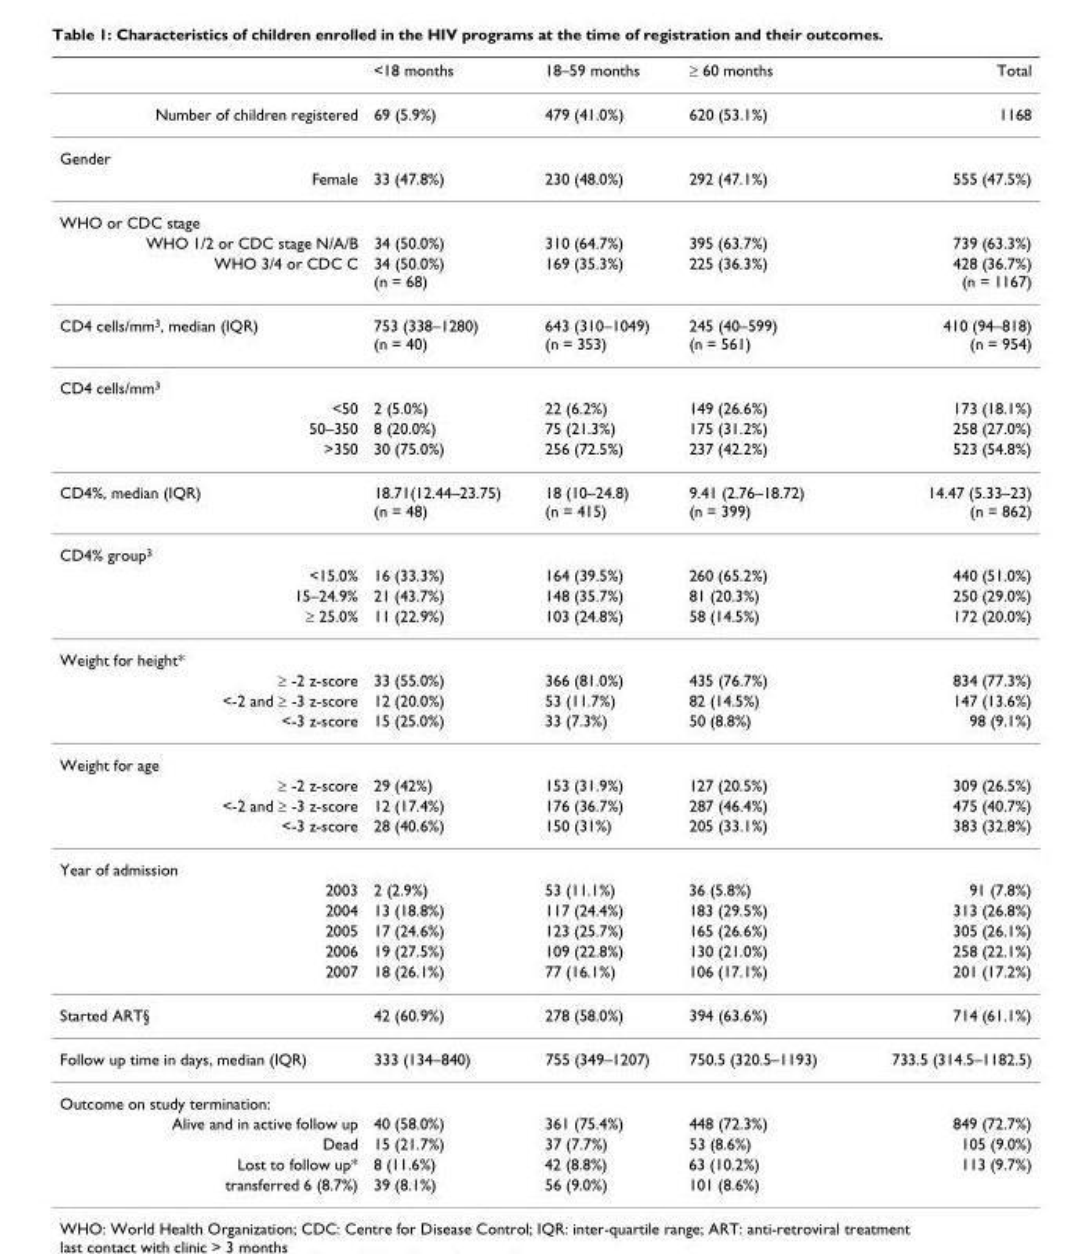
<table><thead><tr><td></td><td>&lt;18 months</td><td>18–59 months</td><td>≥ 60 months</td><td>Total</td></tr></thead><tbody><tr><td>Number of children registered</td><td>69 (5.9%)</td><td>479 (41.0%)</td><td>620 (53.1%)</td><td>1168</td></tr><tr><td colspan="5">Gender</td></tr><tr><td>Female</td><td>33 (47.8%)</td><td>230 (48.0%)</td><td>292 (47.1%)</td><td>555 (47.5%)</td></tr><tr><td colspan="5">WHO or CDC stage</td></tr><tr><td>WHO 1/2 or CDC stage N/A/B</td><td>34 (50.0%)</td><td>310 (64.7%)</td><td>395 (63.7%)</td><td>739 (63.3%)</td></tr><tr><td>WHO 3/4 or CDC C</td><td>34 (50.0%) (n = 68)</td><td>169 (35.3%)</td><td>225 (36.3%)</td><td>428 (36.7%) (n = 1167)</td></tr><tr><td>CD4 cells/mm<sup>3</sup>, median (IQR)</td><td>753 (338–1280) (n = 40)</td><td>643 (310–1049) (n = 353)</td><td>245 (40–599) (n = 561)</td><td>410 (94–818) (n = 954)</td></tr><tr><td colspan="5">CD4 cells/mm<sup>3</sup></td></tr><tr><td>&lt;50</td><td>2 (5.0%)</td><td>22 (6.2%)</td><td>149 (26.6%)</td><td>173 (18.1%)</td></tr><tr><td>50–350</td><td>8 (20.0%)</td><td>75 (21.3%)</td><td>175 (31.2%)</td><td>258 (27.0%)</td></tr><tr><td>&gt;350</td><td>30 (75.0%)</td><td>256 (72.5%)</td><td>237 (42.2%)</td><td>523 (54.8%)</td></tr><tr><td>CD4%, median (IQR)</td><td>18.71(12.44–23.75) (n = 48)</td><td>18 (10–24.8) (n = 415)</td><td>9.41 (2.76–18.72) (n = 399)</td><td>14.47 (5.33–23) (n = 862)</td></tr><tr><td colspan="5">CD4% group<sup>3</sup></td></tr><tr><td>&lt;15.0%</td><td>16 (33.3%)</td><td>164 (39.5%)</td><td>260 (65.2%)</td><td>440 (51.0%)</td></tr><tr><td>15–24.9%</td><td>21 (43.7%)</td><td>148 (35.7%)</td><td>81 (20.3%)</td><td>250 (29.0%)</td></tr><tr><td>≥ 25.0%</td><td>11 (22.9%)</td><td>103 (24.8%)</td><td>58 (14.5%)</td><td>172 (20.0%)</td></tr><tr><td colspan="5">Weight for height*</td></tr><tr><td>≥ -2 z-score</td><td>33 (55.0%)</td><td>366 (81.0%)</td><td>435 (76.7%)</td><td>834 (77.3%)</td></tr><tr><td>&lt;-2 and ≥ -3 z-score</td><td>12 (20.0%)</td><td>53 (11.7%)</td><td>82 (14.5%)</td><td>147 (13.6%)</td></tr><tr><td>&lt;-3 z-score</td><td>15 (25.0%)</td><td>33 (7.3%)</td><td>50 (8.8%)</td><td>98 (9.1%)</td></tr><tr><td colspan="5">Weight for age</td></tr><tr><td>≥ -2 z-score</td><td>29 (42%)</td><td>153 (31.9%)</td><td>127 (20.5%)</td><td>309 (26.5%)</td></tr><tr><td>&lt;-2 and ≥ -3 z-score</td><td>12 (17.4%)</td><td>176 (36.7%)</td><td>287 (46.4%)</td><td>475 (40.7%)</td></tr><tr><td>&lt;-3 z-score</td><td>28 (40.6%)</td><td>150 (31%)</td><td>205 (33.1%)</td><td>383 (32.8%)</td></tr><tr><td colspan="5">Year of admission</td></tr><tr><td>2003</td><td>2 (2.9%)</td><td>53 (11.1%)</td><td>36 (5.8%)</td><td>91 (7.8%)</td></tr><tr><td>2004</td><td>13 (18.8%)</td><td>117 (24.4%)</td><td>183 (29.5%)</td><td>313 (26.8%)</td></tr><tr><td>2005</td><td>17 (24.6%)</td><td>123 (25.7%)</td><td>165 (26.6%)</td><td>305 (26.1%)</td></tr><tr><td>2006</td><td>19 (27.5%)</td><td>109 (22.8%)</td><td>130 (21.0%)</td><td>258 (22.1%)</td></tr><tr><td>2007</td><td>18 (26.1%)</td><td>77 (16.1%)</td><td>106 (17.1%)</td><td>201 (17.2%)</td></tr><tr><td>Started ART§</td><td>42 (60.9%)</td><td>278 (58.0%)</td><td>394 (63.6%)</td><td>714 (61.1%)</td></tr><tr><td>Follow up time in days, median (IQR)</td><td>333 (134–840)</td><td>755 (349–1207)</td><td>750.5 (320.5–1193)</td><td>733.5 (314.5–1182.5)</td></tr><tr><td colspan="5">Outcome on study termination:</td></tr><tr><td>Alive and in active follow up</td><td>40 (58.0%)</td><td>361 (75.4%)</td><td>448 (72.3%)</td><td>849 (72.7%)</td></tr><tr><td>Dead</td><td>15 (21.7%)</td><td>37 (7.7%)</td><td>53 (8.6%)</td><td>105 (9.0%)</td></tr><tr><td>Lost to follow up*</td><td>8 (11.6%)</td><td>42 (8.8%)</td><td>63 (10.2%)</td><td>113 (9.7%)</td></tr><tr><td>transferred 6 (8.7%)</td><td>39 (8.1%)</td><td>56 (9.0%)</td><td>101 (8.6%)</td><td></td></tr></tbody></table>